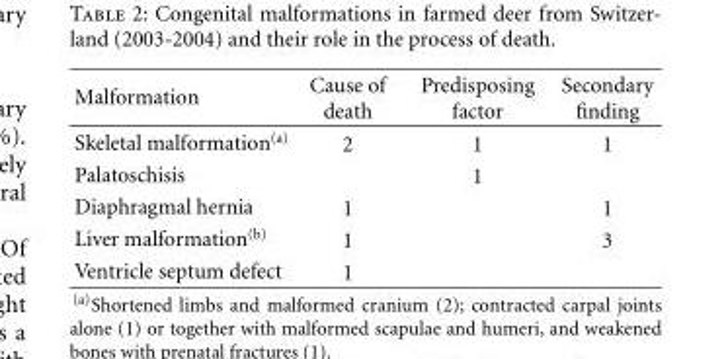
<table><thead><tr><td>Malformation</td><td>Cause of death</td><td>Predisposing factor</td><td>Secondary finding</td></tr></thead><tbody><tr><td>Skeletal malformation<sup>(a)</sup></td><td>2</td><td>1</td><td>1</td></tr><tr><td>Palatoschisis</td><td></td><td>1</td><td></td></tr><tr><td>Diaphragmal hernia</td><td>1</td><td></td><td>1</td></tr><tr><td>Liver malformation<sup>(b)</sup></td><td>1</td><td></td><td>3</td></tr><tr><td>Ventricle septum defect</td><td>1</td><td></td><td></td></tr></tbody></table>